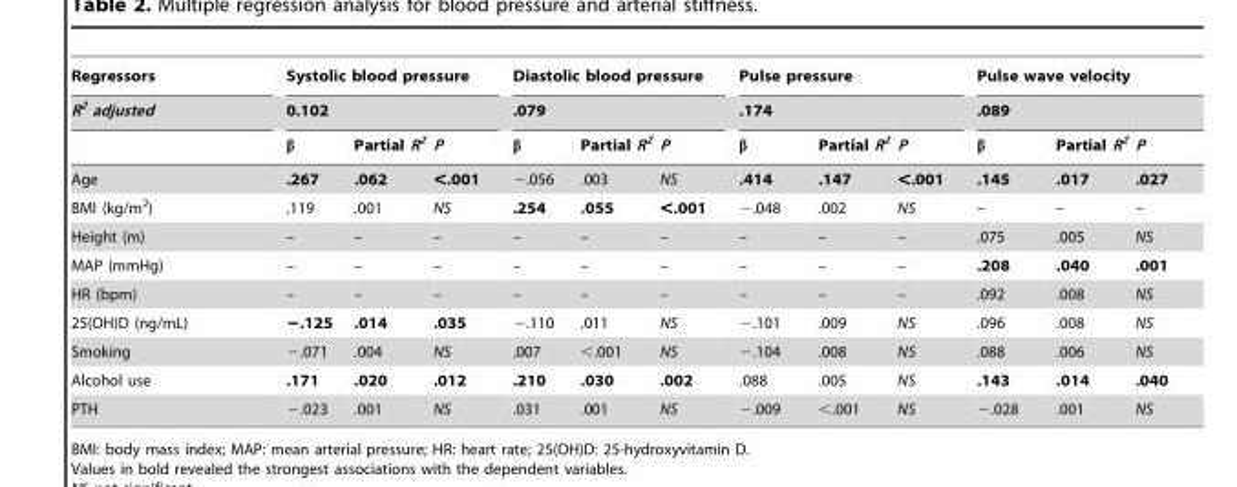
<table><thead><tr><td rowspan="3">Regressors R<sup>2</sup> adjusted</td><td rowspan="2" colspan="3">Systolic blood pressure 0.102</td><td rowspan="2" colspan="3">Diastolic blood pressure .079</td><td rowspan="2" colspan="3">Pulse pressure .174</td><td rowspan="2" colspan="3">Pulse wave velocity .089</td></tr><tr></tr><tr><td>β</td><td>Partial R<sup>2</sup></td><td>P</td><td>β</td><td>Partial R<sup>2</sup></td><td>P</td><td>β</td><td>Partial R<sup>2</sup></td><td>P</td><td>β</td><td>Partial R<sup>2</sup></td><td>P</td></tr></thead><tbody><tr><td>Age</td><td>.267</td><td>.062</td><td>&lt;.001</td><td>−.056</td><td>.003</td><td>NS</td><td>.414</td><td>.147</td><td>&lt;.001</td><td>.145</td><td>.017</td><td>.027</td></tr><tr><td>BMI (kg/m<sup>2</sup>)</td><td>.119</td><td>.001</td><td>NS</td><td>.254</td><td>.055</td><td>&lt;.001</td><td>−.048</td><td>.002</td><td>NS</td><td>–</td><td>–</td><td>–</td></tr><tr><td>Height (m)</td><td>–</td><td>–</td><td>–</td><td>–</td><td>–</td><td>–</td><td>–</td><td>–</td><td>–</td><td>.075</td><td>.005</td><td>NS</td></tr><tr><td>MAP (mmHg)</td><td>–</td><td>–</td><td>–</td><td>–</td><td>–</td><td>–</td><td>–</td><td>–</td><td>–</td><td>.208</td><td>.040</td><td>.001</td></tr><tr><td>HR (bpm)</td><td>–</td><td>–</td><td>–</td><td>–</td><td>–</td><td>–</td><td>–</td><td>–</td><td>–</td><td>.092</td><td>.008</td><td>NS</td></tr><tr><td>25(OH)D (ng/mL)</td><td>−.125</td><td>.014</td><td>.035</td><td>−.110</td><td>.011</td><td>NS</td><td>−.101</td><td>.009</td><td>NS</td><td>.096</td><td>.008</td><td>NS</td></tr><tr><td>Smoking</td><td>−.071</td><td>.004</td><td>NS</td><td>.007</td><td>&lt;.001</td><td>NS</td><td>−.104</td><td>.008</td><td>NS</td><td>.088</td><td>.006</td><td>NS</td></tr><tr><td>Alcohol use</td><td>.171</td><td>.020</td><td>.012</td><td>.210</td><td>.030</td><td>.002</td><td>.088</td><td>.005</td><td>NS</td><td>.143</td><td>.014</td><td>.040</td></tr><tr><td>PTH</td><td>−.023</td><td>.001</td><td>NS</td><td>.031</td><td>.001</td><td>NS</td><td>−.009</td><td>&lt;.001</td><td>NS</td><td>−.028</td><td>.001</td><td>NS</td></tr></tbody></table>